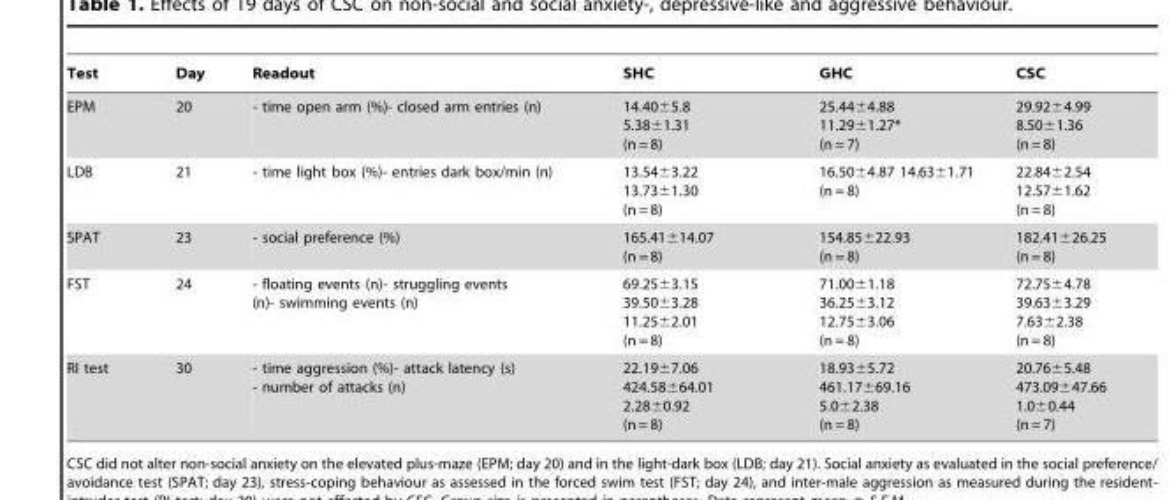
<table><thead><tr><td>Test</td><td>Day</td><td>Readout</td><td>SHC</td><td>GHC</td><td>CSC</td></tr></thead><tbody><tr><td>EPM</td><td>20</td><td>- time open arm (%)- closed arm entries (n)</td><td>14.40±5.8 5.38±1.31 (n = 8)</td><td>25.44±4.88 11.29±1.27* (n = 7)</td><td>29.92±4.99 8.50±1.36 (n = 8)</td></tr><tr><td>LDB</td><td>21</td><td>- time light box (%)- entries dark box/min (n)</td><td>13.54±3.22 13.73±1.30 (n = 8)</td><td>16.50±4.87 14.63±1.71 (n = 8)</td><td>22.84±2.54 12.57±1.62 (n = 8)</td></tr><tr><td>SPAT</td><td>23</td><td>- social preference (%)</td><td>165.41±14.07 (n = 8)</td><td>154.85±22.93 (n = 8)</td><td>182.41±26.25 (n = 8)</td></tr><tr><td>FST</td><td>24</td><td>- floating events (n)- struggling events (n)- swimming events (n)</td><td>69.25±3.15 39.50±3.28 11.25±2.01 (n = 8)</td><td>71.00±1.18 36.25±3.12 12.75±3.06 (n = 8)</td><td>72.75±4.78 39.63±3.29 7.63±2.38 (n = 8)</td></tr><tr><td>RI test</td><td>30</td><td>- time aggression (%)- attack latency (s) - number of attacks (n)</td><td>22.19±7.06 424.58±64.01 2.28±0.92 (n = 8)</td><td>18.93±5.72 461.17±69.16 5.0±2.38 (n = 8)</td><td>20.76±5.48 473.09±47.66 1.0±0.44 (n = 7)</td></tr></tbody></table>